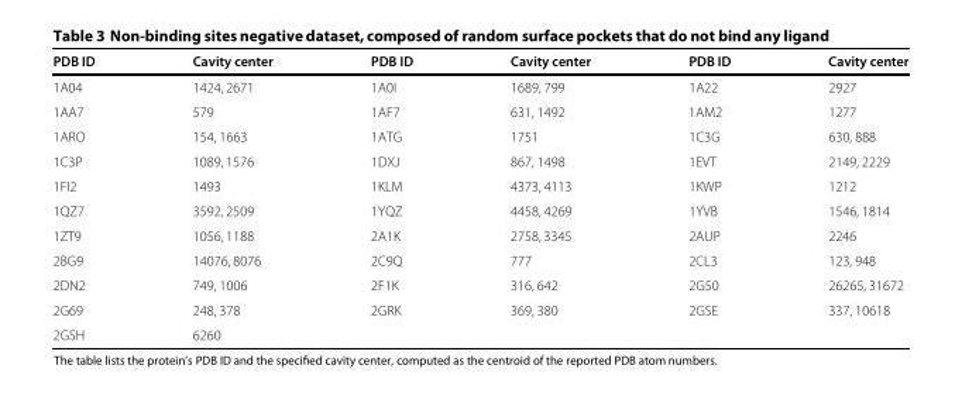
<table><thead><tr><td>PDB ID</td><td>Cavity center</td><td>PDB ID</td><td>Cavity center</td><td>PDB ID</td><td>Cavity center</td></tr></thead><tbody><tr><td>1A04</td><td>1424, 2671</td><td>1A0I</td><td>1689, 799</td><td>1A22</td><td>2927</td></tr><tr><td>1AA7</td><td>579</td><td>1AF7</td><td>631, 1492</td><td>1AM2</td><td>1277</td></tr><tr><td>1ARO</td><td>154, 1663</td><td>1ATG</td><td>1751</td><td>1C3G</td><td>630, 888</td></tr><tr><td>1C3P</td><td>1089, 1576</td><td>1DXJ</td><td>867, 1498</td><td>1EVT</td><td>2149, 2229</td></tr><tr><td>1FI2</td><td>1493</td><td>1KLM</td><td>4373, 4113</td><td>1KWP</td><td>1212</td></tr><tr><td>1QZ7</td><td>3592, 2509</td><td>1YQZ</td><td>4458, 4269</td><td>1YVB</td><td>1546, 1814</td></tr><tr><td>1ZT9</td><td>1056, 1188</td><td>2A1K</td><td>2758, 3345</td><td>2AUP</td><td>2246</td></tr><tr><td>2BG9</td><td>14076, 8076</td><td>2C9Q</td><td>777</td><td>2CL3</td><td>123, 948</td></tr><tr><td>2DN2</td><td>749, 1006</td><td>2F1K</td><td>316, 642</td><td>2G50</td><td>26265, 31672</td></tr><tr><td>2G69</td><td>248, 378</td><td>2GRK</td><td>369, 380</td><td>2GSE</td><td>337, 10618</td></tr><tr><td>2GSH</td><td>6260</td><td></td><td></td><td></td><td></td></tr></tbody></table>